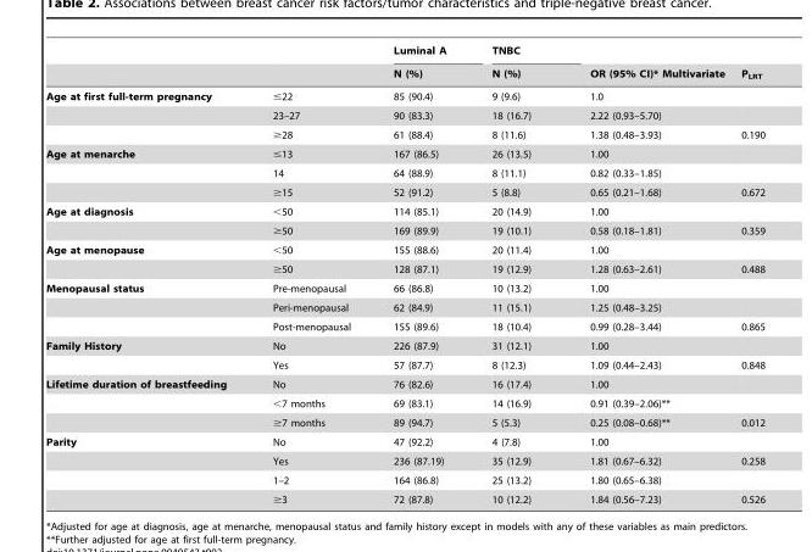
<table><thead><tr><td rowspan="2"></td><td rowspan="2"></td><td rowspan="2">Luminal A N (%)</td><td rowspan="2">TNBC N (%)</td><td rowspan="2">OR (95% CI)* Multivariate</td><td rowspan="2">P<sub>LRT</sub></td></tr><tr></tr></thead><tbody><tr><td rowspan="3">Age at first full-term pregnancy</td><td>≤22</td><td>85 (90.4)</td><td>9 (9.6)</td><td>1.0</td><td></td></tr><tr><td>23–27</td><td>90 (83.3)</td><td>18 (16.7)</td><td>2.22 (0.93–5.70)</td><td></td></tr><tr><td>≥28</td><td>61 (88.4)</td><td>8 (11.6)</td><td>1.38 (0.48–3.93)</td><td>0.190</td></tr><tr><td rowspan="3">Age at menarche</td><td>≤13</td><td>167 (86.5)</td><td>26 (13.5)</td><td>1.00</td><td></td></tr><tr><td>14</td><td>64 (88.9)</td><td>8 (11.1)</td><td>0.82 (0.33–1.85)</td><td></td></tr><tr><td>≥15</td><td>52 (91.2)</td><td>5 (8.8)</td><td>0.65 (0.21–1.68)</td><td>0.672</td></tr><tr><td rowspan="2">Age at diagnosis</td><td>&lt;50</td><td>114 (85.1)</td><td>20 (14.9)</td><td>1.00</td><td></td></tr><tr><td>≥50</td><td>169 (89.9)</td><td>19 (10.1)</td><td>0.58 (0.18–1.81)</td><td>0.359</td></tr><tr><td rowspan="2">Age at menopause</td><td>&lt;50</td><td>155 (88.6)</td><td>20 (11.4)</td><td>1.00</td><td></td></tr><tr><td>≥50</td><td>128 (87.1)</td><td>19 (12.9)</td><td>1.28 (0.63–2.61)</td><td>0.488</td></tr><tr><td rowspan="3">Menopausal status</td><td>Pre-menopausal</td><td>66 (86.8)</td><td>10 (13.2)</td><td>1.00</td><td></td></tr><tr><td>Peri-menopausal</td><td>62 (84.9)</td><td>11 (15.1)</td><td>1.25 (0.48–3.25)</td><td></td></tr><tr><td>Post-menopausal</td><td>155 (89.6)</td><td>18 (10.4)</td><td>0.99 (0.28–3.44)</td><td>0.865</td></tr><tr><td rowspan="2">Family History</td><td>No</td><td>226 (87.9)</td><td>31 (12.1)</td><td>1.00</td><td></td></tr><tr><td>Yes</td><td>57 (87.7)</td><td>8 (12.3)</td><td>1.09 (0.44–2.43)</td><td>0.848</td></tr><tr><td rowspan="3">Lifetime duration of breastfeeding</td><td>No</td><td>76 (82.6)</td><td>16 (17.4)</td><td>1.00</td><td></td></tr><tr><td>&lt;7 months</td><td>69 (83.1)</td><td>14 (16.9)</td><td>0.91 (0.39–2.06)**</td><td></td></tr><tr><td>≥7 months</td><td>89 (94.7)</td><td>5 (5.3)</td><td>0.25 (0.08–0.68)**</td><td>0.012</td></tr><tr><td rowspan="4">Parity</td><td>No</td><td>47 (92.2)</td><td>4 (7.8)</td><td>1.00</td><td></td></tr><tr><td>Yes</td><td>236 (87.19)</td><td>35 (12.9)</td><td>1.81 (0.67–6.32)</td><td>0.258</td></tr><tr><td>1–2</td><td>164 (86.8)</td><td>25 (13.2)</td><td>1.80 (0.65–6.38)</td><td></td></tr><tr><td>≥3</td><td>72 (87.8)</td><td>10 (12.2)</td><td>1.84 (0.56–7.23)</td><td>0.526</td></tr></tbody></table>